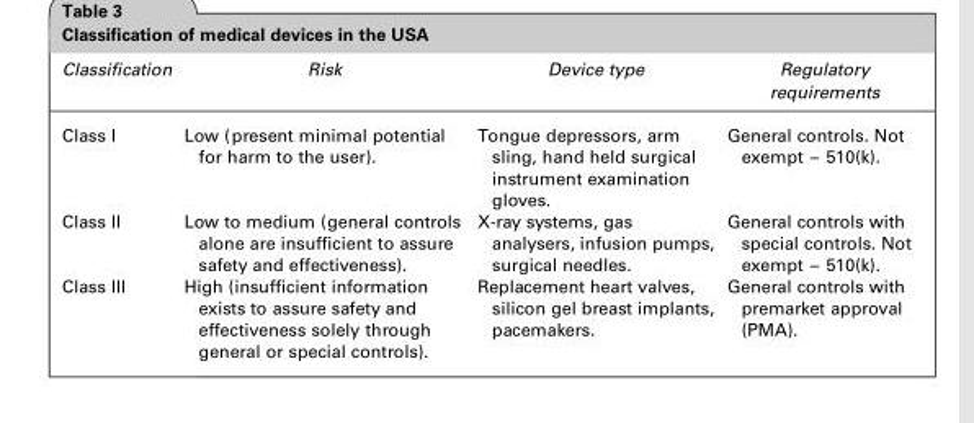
<table><thead><tr><td>Classification</td><td>Risk</td><td>Device type</td><td>Regulatory requirements</td></tr></thead><tbody><tr><td>Class I</td><td>Low (present minimal potential for harm to the user).</td><td>Tongue depressors, arm sling, hand held surgical instrument examination gloves.</td><td>General controls. Not exempt – 510(k).</td></tr><tr><td>Class II</td><td>Low to medium (general controls alone are insufficient to assure safety and effectiveness).</td><td>X-ray systems, gas analysers, infusion pumps, surgical needles.</td><td>General controls with special controls. Not exempt – 510(k).</td></tr><tr><td>Class III</td><td>High (insufficient information exists to assure safety and effectiveness solely through general or special controls).</td><td>Replacement heart valves, silicon gel breast implants, pacemakers.</td><td>General controls with premarket approval (PMA).</td></tr></tbody></table>